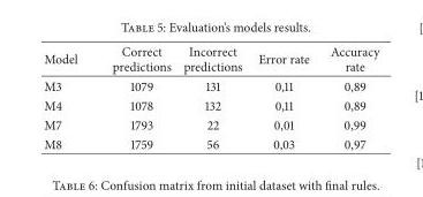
<table><thead><tr><td>Model</td><td>Correct predictions</td><td>Incorrect predictions</td><td>Error rate</td><td>Accuracy rate</td></tr></thead><tbody><tr><td>M3</td><td>1079</td><td>131</td><td>0,11</td><td>0,89</td></tr><tr><td>M4</td><td>1078</td><td>132</td><td>0,11</td><td>0,89</td></tr><tr><td>M7</td><td>1793</td><td>22</td><td>0,01</td><td>0,99</td></tr><tr><td>M8</td><td>1759</td><td>56</td><td>0,03</td><td>0,97</td></tr></tbody></table>